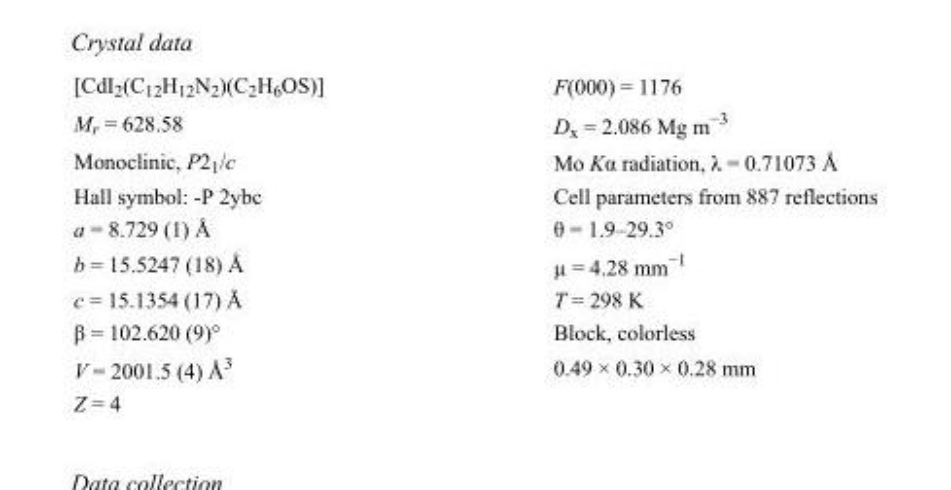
<table><tbody><tr><td>[CdI<sub>2</sub>(C<sub>12</sub>H<sub>12</sub>N<sub>2</sub>)(C<sub>2</sub>H<sub>6</sub>OS)]</td><td>F(000) = 1176</td></tr><tr><td>M<sub>r</sub> = 628.58</td><td>D<sub>x</sub> = 2.086 Mg m<sup>−3</sup></td></tr><tr><td>Monoclinic, P2<sub>1</sub>/c</td><td>Mo Kα radiation, λ = 0.71073 Å</td></tr><tr><td>Hall symbol: -P 2ybc</td><td>Cell parameters from 887 reflections</td></tr><tr><td>a = 8.729 (1) Å</td><td>θ = 1.9–29.3°</td></tr><tr><td>b = 15.5247 (18) Å</td><td>µ = 4.28 mm<sup>−1</sup></td></tr><tr><td>c = 15.1354 (17) Å</td><td>T = 298 K</td></tr><tr><td>β = 102.620 (9)°</td><td>Block, colorless</td></tr><tr><td>V = 2001.5 (4) Å<sup>3</sup></td><td>0.49 × 0.30 × 0.28 mm</td></tr><tr><td>Z = 4</td><td></td></tr></tbody></table>